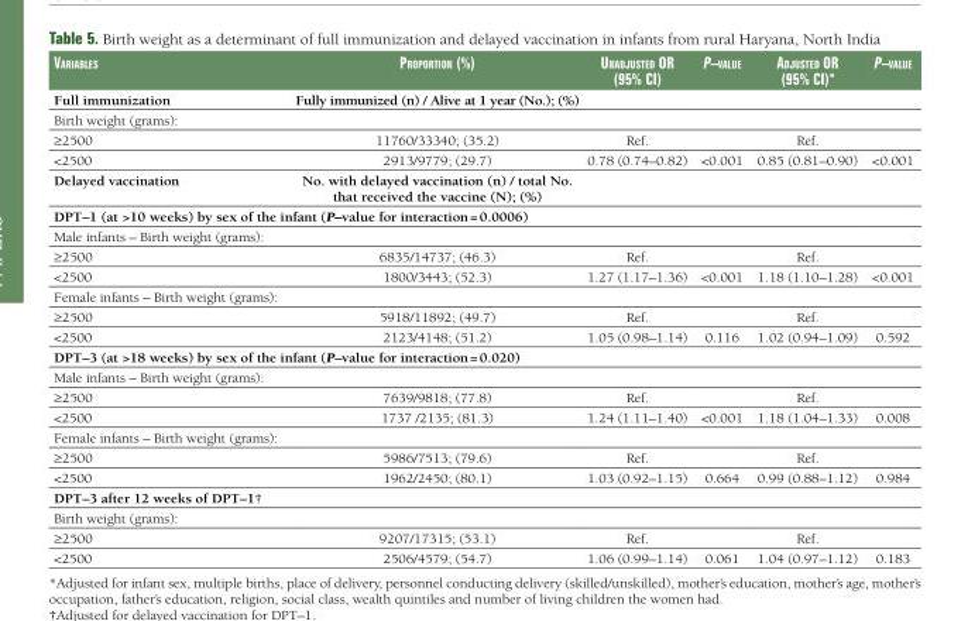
<table><thead><tr><td>Variables</td><td>ProPortioN (%)</td><td>uNadjusted or (95% ci)</td><td>P–Value</td><td>adjusted or (95% ci)*</td><td>P–Value</td></tr></thead><tbody><tr><td>Full immunization</td><td>Fully immunized (n) / Alive at 1 year (No.); (%)</td><td></td><td></td><td></td><td></td></tr><tr><td colspan="6">Birth weight (grams):</td></tr><tr><td>≥2500</td><td>11760/33340; (35.2)</td><td>Ref.</td><td></td><td>Ref.</td><td></td></tr><tr><td>&lt;2500</td><td>2913/9779; (29.7)</td><td>0.78 (0.74–0.82)</td><td>&lt;0.001</td><td>0.85 (0.81–0.90)</td><td>&lt;0.001</td></tr><tr><td>Delayed vaccination</td><td>No. with delayed vaccination (n) / total No. that received the vaccine (N); (%)</td><td colspan="4"></td></tr><tr><td colspan="6">DPT–1 (at &gt;10 weeks) by sex of the infant (P–value for interaction = 0.0006)</td></tr><tr><td colspan="6">Male infants – Birth weight (grams):</td></tr><tr><td>≥2500</td><td>6835/14737; (46.3)</td><td>Ref.</td><td></td><td>Ref.</td><td></td></tr><tr><td>&lt;2500</td><td>1800/3443; (52.3)</td><td>1.27 (1.17–1.36)</td><td>&lt;0.001</td><td>1.18 (1.10–1.28)</td><td>&lt;0.001</td></tr><tr><td colspan="6">Female infants – Birth weight (grams):</td></tr><tr><td>≥2500</td><td>5918/11892; (49.7)</td><td>Ref.</td><td></td><td>Ref.</td><td></td></tr><tr><td>&lt;2500</td><td>2123/4148; (51.2)</td><td>1.05 (0.98–1.14)</td><td>0.116</td><td>1.02 (0.94–1.09)</td><td>0.592</td></tr><tr><td colspan="6">DPT–3 (at &gt;18 weeks) by sex of the infant (P–value for interaction = 0.020)</td></tr><tr><td colspan="6">Male infants – Birth weight (grams):</td></tr><tr><td>≥2500</td><td>7639/9818; (77.8)</td><td>Ref.</td><td></td><td>Ref.</td><td></td></tr><tr><td>&lt;2500</td><td>1737 /2135; (81.3)</td><td>1.24 (1.11–1.40)</td><td>&lt;0.001</td><td>1.18 (1.04–1.33)</td><td>0.008</td></tr><tr><td colspan="6">Female infants – Birth weight (grams):</td></tr><tr><td>≥2500</td><td>5986/7513; (79.6)</td><td>Ref.</td><td></td><td>Ref.</td><td></td></tr><tr><td>&lt;2500</td><td>1962/2450; (80.1)</td><td>1.03 (0.92–1.15)</td><td>0.664</td><td>0.99 (0.88–1.12)</td><td>0.984</td></tr><tr><td colspan="6">DPT–3 after 12 weeks of DPT–1†</td></tr><tr><td colspan="6">Birth weight (grams):</td></tr><tr><td>≥2500</td><td>9207/17315; (53.1)</td><td>Ref.</td><td></td><td>Ref.</td><td></td></tr><tr><td>&lt;2500</td><td>2506/4579; (54.7)</td><td>1.06 (0.99–1.14)</td><td>0.061</td><td>1.04 (0.97–1.12)</td><td>0.183</td></tr></tbody></table>